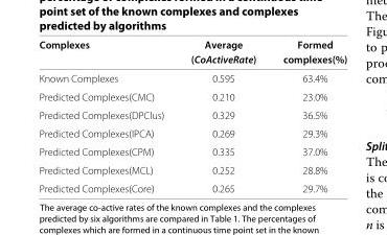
<table><thead><tr><td rowspan="2">Complexes</td><td rowspan="2">Average (CoActiveRate)</td><td rowspan="2">Formed complexes(%)</td></tr><tr></tr></thead><tbody><tr><td>Known Complexes</td><td>0.595</td><td>63.4%</td></tr><tr><td>Predicted Complexes(CMC)</td><td>0.210</td><td>23.0%</td></tr><tr><td>Predicted Complexes(DPClus)</td><td>0.329</td><td>36.5%</td></tr><tr><td>Predicted Complexes(IPCA)</td><td>0.269</td><td>29.3%</td></tr><tr><td>Predicted Complexes(CPM)</td><td>0.335</td><td>37.0%</td></tr><tr><td>Predicted Complexes(MCL)</td><td>0.252</td><td>28.8%</td></tr><tr><td>Predicted Complexes(Core)</td><td>0.265</td><td>29.7%</td></tr></tbody></table>